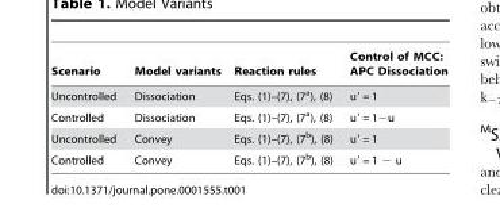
<table><thead><tr><td>Scenario</td><td>Model variants</td><td>Reaction rules</td><td>Control of MCC: APC Dissociation</td></tr></thead><tbody><tr><td>Uncontrolled</td><td>Dissociation</td><td>Eqs. (1)–(7), (7<sup>a</sup>), (8)</td><td>u′ = 1</td></tr><tr><td>Controlled</td><td>Dissociation</td><td>Eqs. (1)–(7), (7<sup>a</sup>), (8)</td><td>u′ = 1−u</td></tr><tr><td>Uncontrolled</td><td>Convey</td><td>Eqs. (1)–(7), (7<sup>b</sup>), (8)</td><td>u′ = 1</td></tr><tr><td>Controlled</td><td>Convey</td><td>Eqs. (1)–(7), (7<sup>b</sup>), (8)</td><td>u′ = 1 − u</td></tr></tbody></table>